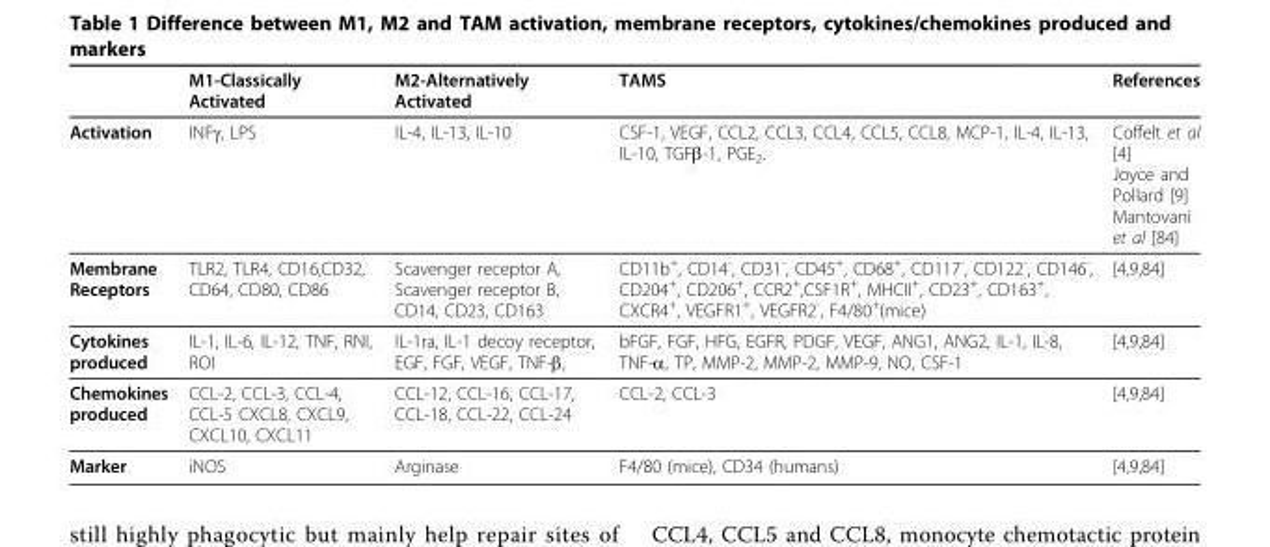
<table><thead><tr><td></td><td>M1-Classically Activated</td><td>M2-Alternatively Activated</td><td>TAMS</td><td>References</td></tr></thead><tbody><tr><td>Activation</td><td>INFγ, LPS</td><td>IL-4, IL-13, IL-10</td><td>CSF-1, VEGF, CCL2, CCL3, CCL4, CCL5, CCL8, MCP-1, IL-4, IL-13, IL-10, TGFβ-1, PGE<sub>2</sub>.</td><td>Coffelt et al [4] Joyce and Pollard [9] Mantovani et al [84]</td></tr><tr><td>Membrane Receptors</td><td>TLR2, TLR4, CD16,CD32, CD64, CD80, CD86</td><td>Scavenger receptor A, Scavenger receptor B, CD14, CD23, CD163</td><td>CD11b<sup>+</sup>, CD14<sup>-</sup>, CD31<sup>-</sup>, CD45<sup>+</sup>, CD68<sup>+</sup>, CD117<sup>-</sup>, CD122<sup>-</sup>, CD146<sup>-</sup>, CD204<sup>+</sup>, CD206<sup>+</sup>, CCR2<sup>+</sup>,CSF1R<sup>+</sup>, MHCII<sup>+</sup>, CD23<sup>+</sup>, CD163<sup>+</sup>, CXCR4<sup>+</sup>, VEGFR1<sup>+</sup>, VEGFR2<sup>-</sup>, F4/80<sup>+</sup>(mice)</td><td>[4,9,84]</td></tr><tr><td>Cytokines produced</td><td>IL-1, IL-6, IL-12, TNF, RNI, ROI</td><td>IL-1ra, IL-1 decoy receptor, EGF, FGF, VEGF, TNF-β,</td><td>bFGF, FGF, HFG, EGFR, PDGF, VEGF, ANG1, ANG2, IL-1, IL-8, TNF-α, TP, MMP-2, MMP-2, MMP-9, NO, CSF-1</td><td>[4,9,84]</td></tr><tr><td>Chemokines produced</td><td>CCL-2, CCL-3, CCL-4, CCL-5 CXCL8, CXCL9, CXCL10, CXCL11</td><td>CCL-12, CCL-16, CCL-17, CCL-18, CCL-22, CCL-24</td><td>CCL-2, CCL-3</td><td>[4,9,84]</td></tr><tr><td>Marker</td><td>iNOS</td><td>Arginase</td><td>F4/80 (mice), CD34 (humans)</td><td>[4,9,84]</td></tr></tbody></table>